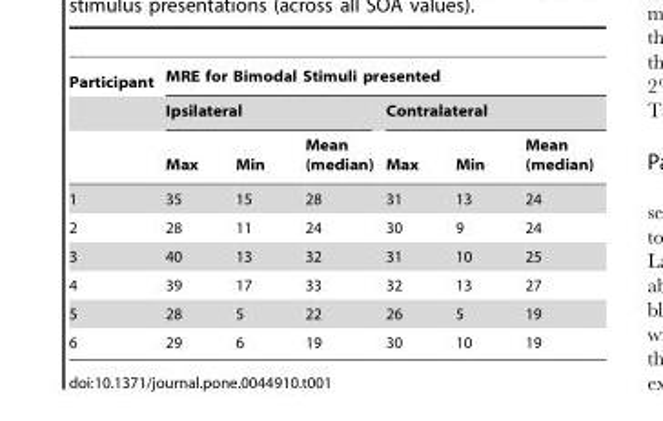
<table><thead><tr><td rowspan="3">Participant</td><td colspan="6">MRE for Bimodal Stimuli presented</td></tr><tr><td colspan="3">Ipsilateral</td><td colspan="3">Contralateral</td></tr><tr><td>Max</td><td>Min</td><td>Mean (median)</td><td>Max</td><td>Min</td><td>Mean (median)</td></tr></thead><tbody><tr><td>1</td><td>35</td><td>15</td><td>28</td><td>31</td><td>13</td><td>24</td></tr><tr><td>2</td><td>28</td><td>11</td><td>24</td><td>30</td><td>9</td><td>24</td></tr><tr><td>3</td><td>40</td><td>13</td><td>32</td><td>31</td><td>10</td><td>25</td></tr><tr><td>4</td><td>39</td><td>17</td><td>33</td><td>32</td><td>13</td><td>27</td></tr><tr><td>5</td><td>28</td><td>5</td><td>22</td><td>26</td><td>5</td><td>19</td></tr><tr><td>6</td><td>29</td><td>6</td><td>19</td><td>30</td><td>10</td><td>19</td></tr></tbody></table>